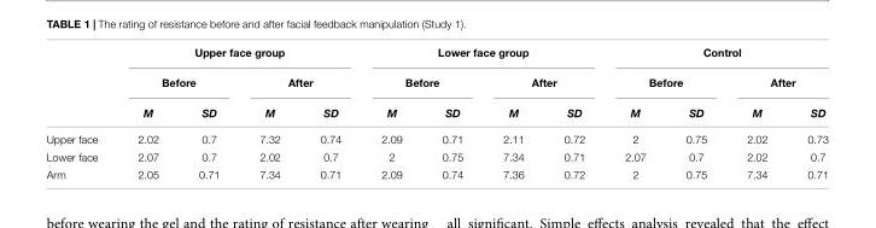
<table><thead><tr><td rowspan="3"></td><td colspan="4">Upper face group</td><td colspan="4">Lower face group</td><td colspan="4">Control</td></tr><tr><td colspan="2">Before</td><td colspan="2">After</td><td colspan="2">Before</td><td colspan="2">After</td><td colspan="2">Before</td><td colspan="2">After</td></tr><tr><td>M</td><td>SD</td><td>M</td><td>SD</td><td>M</td><td>SD</td><td>M</td><td>SD</td><td>M</td><td>SD</td><td>M</td><td>SD</td></tr></thead><tbody><tr><td>Upper face</td><td>2.02</td><td>0.7</td><td>7.32</td><td>0.74</td><td>2.09</td><td>0.71</td><td>2.11</td><td>0.72</td><td>2</td><td>0.75</td><td>2.02</td><td>0.73</td></tr><tr><td>Lower face</td><td>2.07</td><td>0.7</td><td>2.02</td><td>0.7</td><td>2</td><td>0.75</td><td>7.34</td><td>0.71</td><td>2.07</td><td>0.7</td><td>2.02</td><td>0.7</td></tr><tr><td>Arm</td><td>2.05</td><td>0.71</td><td>7.34</td><td>0.71</td><td>2.09</td><td>0.74</td><td>7.36</td><td>0.72</td><td>2</td><td>0.75</td><td>7.34</td><td>0.71</td></tr></tbody></table>